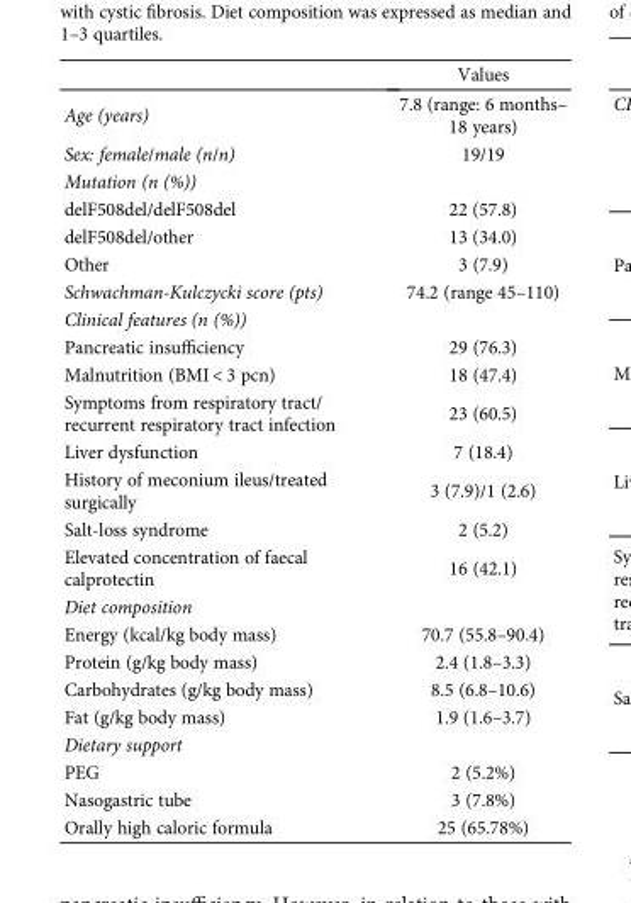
<table><thead><tr><td></td><td>Values</td></tr></thead><tbody><tr><td>Age (years)</td><td>7.8 (range: 6 months– 18 years)</td></tr><tr><td>Sex: female/male (n/n)</td><td>19/19</td></tr><tr><td colspan="2">Mutation (n (%))</td></tr><tr><td>delF508del/delF508del</td><td>22 (57.8)</td></tr><tr><td>delF508del/other</td><td>13 (34.0)</td></tr><tr><td>Other</td><td>3 (7.9)</td></tr><tr><td>Schwachman-Kulczycki score (pts)</td><td>74.2 (range 45–110)</td></tr><tr><td colspan="2">Clinical features (n (%))</td></tr><tr><td>Pancreatic insufficiency</td><td>29 (76.3)</td></tr><tr><td>Malnutrition (BMI &lt; 3 pcn)</td><td>18 (47.4)</td></tr><tr><td>Symptoms from respiratory tract/ recurrent respiratory tract infection</td><td>23 (60.5)</td></tr><tr><td>Liver dysfunction</td><td>7 (18.4)</td></tr><tr><td>History of meconium ileus/treated surgically</td><td>3 (7.9)/1 (2.6)</td></tr><tr><td>Salt-loss syndrome</td><td>2 (5.2)</td></tr><tr><td>Elevated concentration of faecal calprotectin</td><td>16 (42.1)</td></tr><tr><td colspan="2">Diet composition</td></tr><tr><td>Energy (kcal/kg body mass)</td><td>70.7 (55.8–90.4)</td></tr><tr><td>Protein (g/kg body mass)</td><td>2.4 (1.8–3.3)</td></tr><tr><td>Carbohydrates (g/kg body mass)</td><td>8.5 (6.8–10.6)</td></tr><tr><td>Fat (g/kg body mass)</td><td>1.9 (1.6–3.7)</td></tr><tr><td colspan="2">Dietary support</td></tr><tr><td>PEG</td><td>2 (5.2%)</td></tr><tr><td>Nasogastric tube</td><td>3 (7.8%)</td></tr><tr><td>Orally high caloric formula</td><td>25 (65.78%)</td></tr></tbody></table>